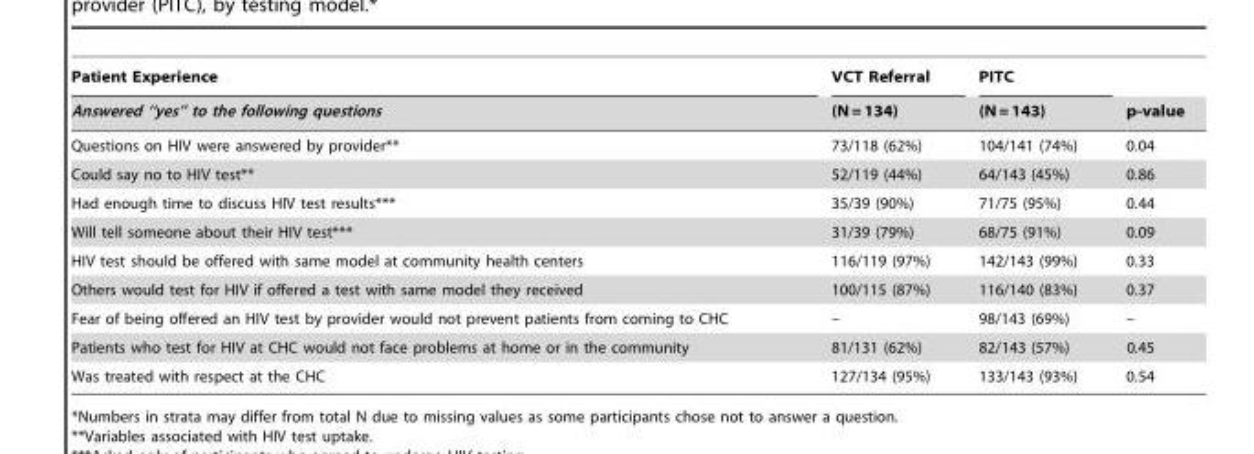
<table><thead><tr><td rowspan="2">Patient Experience Answered ‘‘yes’’ to the following questions</td><td rowspan="2">VCT Referral (N = 134)</td><td rowspan="2">PITC (N = 143)</td><td rowspan="2">p-value</td></tr><tr></tr></thead><tbody><tr><td>Questions on HIV were answered by provider**</td><td>73/118 (62%)</td><td>104/141 (74%)</td><td>0.04</td></tr><tr><td>Could say no to HIV test**</td><td>52/119 (44%)</td><td>64/143 (45%)</td><td>0.86</td></tr><tr><td>Had enough time to discuss HIV test results***</td><td>35/39 (90%)</td><td>71/75 (95%)</td><td>0.44</td></tr><tr><td>Will tell someone about their HIV test***</td><td>31/39 (79%)</td><td>68/75 (91%)</td><td>0.09</td></tr><tr><td>HIV test should be offered with same model at community health centers</td><td>116/119 (97%)</td><td>142/143 (99%)</td><td>0.33</td></tr><tr><td>Others would test for HIV if offered a test with same model they received</td><td>100/115 (87%)</td><td>116/140 (83%)</td><td>0.37</td></tr><tr><td>Fear of being offered an HIV test by provider would not prevent patients from coming to CHC</td><td>–</td><td>98/143 (69%)</td><td>–</td></tr><tr><td>Patients who test for HIV at CHC would not face problems at home or in the community</td><td>81/131 (62%)</td><td>82/143 (57%)</td><td>0.45</td></tr><tr><td>Was treated with respect at the CHC</td><td>127/134 (95%)</td><td>133/143 (93%)</td><td>0.54</td></tr></tbody></table>